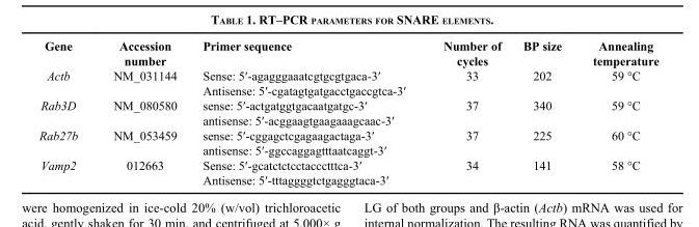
<table><thead><tr><td>Gene</td><td>Accession number</td><td>Primer sequence</td><td>Number of cycles</td><td>BP size</td><td>Annealing temperature</td></tr></thead><tbody><tr><td rowspan="2">Actb</td><td>NM_031144</td><td>Sense: 5′-agagggaaatcgtgcgtgaca-3′</td><td>33</td><td>202</td><td>59 °C</td></tr><tr><td></td><td>Antisense: 5′-cgatagtgatgacctgaccgtca-3′</td><td></td><td></td><td></td></tr><tr><td rowspan="2">Rab3D</td><td>NM_080580</td><td>sense: 5′-actgatggtgacaatgatgc-3′</td><td>37</td><td>340</td><td>59 °C</td></tr><tr><td></td><td>antisense: 5′-acggaagtgaagaaagcaac-3′</td><td></td><td></td><td></td></tr><tr><td rowspan="2">Rab27b</td><td>NM_053459</td><td>sense: 5′-cggagctcgagaagactaga-3′</td><td>37</td><td>225</td><td>60 °C</td></tr><tr><td></td><td>antisense: 5′-ggccaggagtttaatcaggt-3′</td><td></td><td></td><td></td></tr><tr><td rowspan="2">Vamp2</td><td>012663</td><td>Sense: 5′-gcatctctcctaccctttca-3′</td><td>34</td><td>141</td><td>58 °C</td></tr><tr><td></td><td>Antisense: 5′-tttaggggtctgagggtaca-3′</td><td></td><td></td><td></td></tr></tbody></table>